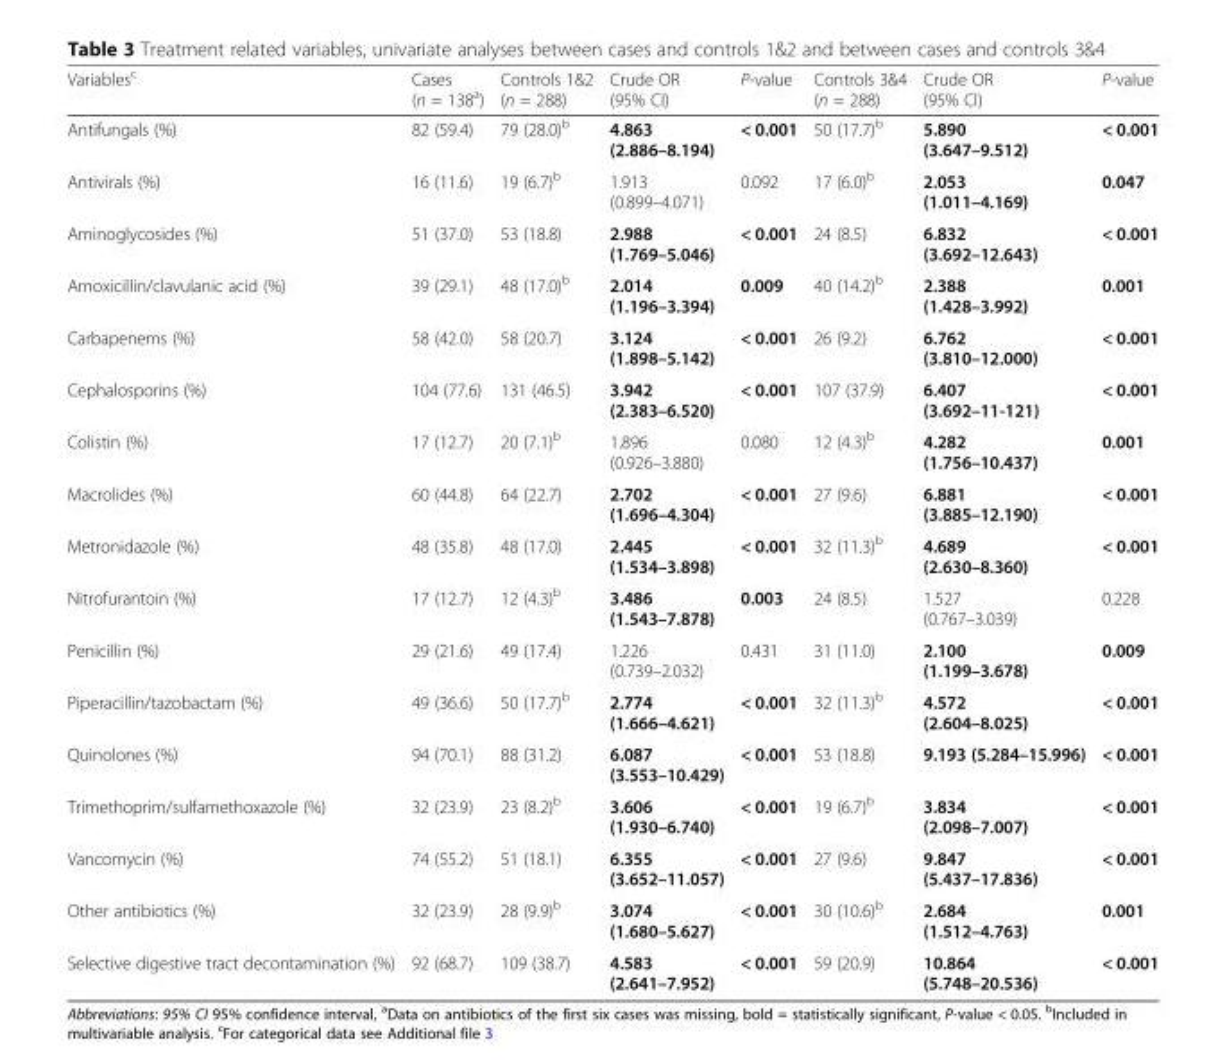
<table><thead><tr><td>Variables<sup>c</sup></td><td>Cases (n = 138<sup>a</sup>)</td><td>Controls 1&amp;2 (n = 288)</td><td>Crude OR (95% CI)</td><td>P-value</td><td>Controls 3&amp;4 (n = 288)</td><td>Crude OR (95% CI)</td><td>P-value</td></tr></thead><tbody><tr><td>Antifungals (%)</td><td>82 (59.4)</td><td>79 (28.0)<sup>b</sup></td><td>4.863 (2.886–8.194)</td><td>&lt; 0.001</td><td>50 (17.7)<sup>b</sup></td><td>5.890 (3.647–9.512)</td><td>&lt; 0.001</td></tr><tr><td>Antivirals (%)</td><td>16 (11.6)</td><td>19 (6.7)<sup>b</sup></td><td>1.913 (0.899–4.071)</td><td>0.092</td><td>17 (6.0)<sup>b</sup></td><td>2.053 (1.011–4.169)</td><td>0.047</td></tr><tr><td>Aminoglycosides (%)</td><td>51 (37.0)</td><td>53 (18.8)</td><td>2.988 (1.769–5.046)</td><td>&lt; 0.001</td><td>24 (8.5)</td><td>6.832 (3.692–12.643)</td><td>&lt; 0.001</td></tr><tr><td>Amoxicillin/clavulanic acid (%)</td><td>39 (29.1)</td><td>48 (17.0)<sup>b</sup></td><td>2.014 (1.196–3.394)</td><td>0.009</td><td>40 (14.2)<sup>b</sup></td><td>2.388 (1.428–3.992)</td><td>0.001</td></tr><tr><td>Carbapenems (%)</td><td>58 (42.0)</td><td>58 (20.7)</td><td>3.124 (1.898–5.142)</td><td>&lt; 0.001</td><td>26 (9.2)</td><td>6.762 (3.810–12.000)</td><td>&lt; 0.001</td></tr><tr><td>Cephalosporins (%)</td><td>104 (77.6)</td><td>131 (46.5)</td><td>3.942 (2.383–6.520)</td><td>&lt; 0.001</td><td>107 (37.9)</td><td>6.407 (3.692–11-121)</td><td>&lt; 0.001</td></tr><tr><td>Colistin (%)</td><td>17 (12.7)</td><td>20 (7.1)<sup>b</sup></td><td>1.896 (0.926–3.880)</td><td>0.080</td><td>12 (4.3)<sup>b</sup></td><td>4.282 (1.756–10.437)</td><td>0.001</td></tr><tr><td>Macrolides (%)</td><td>60 (44.8)</td><td>64 (22.7)</td><td>2.702 (1.696–4.304)</td><td>&lt; 0.001</td><td>27 (9.6)</td><td>6.881 (3.885–12.190)</td><td>&lt; 0.001</td></tr><tr><td>Metronidazole (%)</td><td>48 (35.8)</td><td>48 (17.0)</td><td>2.445 (1.534–3.898)</td><td>&lt; 0.001</td><td>32 (11.3)<sup>b</sup></td><td>4.689 (2.630–8.360)</td><td>&lt; 0.001</td></tr><tr><td>Nitrofurantoin (%)</td><td>17 (12.7)</td><td>12 (4.3)<sup>b</sup></td><td>3.486 (1.543–7.878)</td><td>0.003</td><td>24 (8.5)</td><td>1.527 (0.767–3.039)</td><td>0.228</td></tr><tr><td>Penicillin (%)</td><td>29 (21.6)</td><td>49 (17.4)</td><td>1.226 (0.739–2.032)</td><td>0.431</td><td>31 (11.0)</td><td>2.100 (1.199–3.678)</td><td>0.009</td></tr><tr><td>Piperacillin/tazobactam (%)</td><td>49 (36.6)</td><td>50 (17.7)<sup>b</sup></td><td>2.774 (1.666–4.621)</td><td>&lt; 0.001</td><td>32 (11.3)<sup>b</sup></td><td>4.572 (2.604–8.025)</td><td>&lt; 0.001</td></tr><tr><td>Quinolones (%)</td><td>94 (70.1)</td><td>88 (31.2)</td><td>6.087 (3.553–10.429)</td><td>&lt; 0.001</td><td>53 (18.8)</td><td>9.193 (5.284–15.996)</td><td>&lt; 0.001</td></tr><tr><td>Trimethoprim/sulfamethoxazole (%)</td><td>32 (23.9)</td><td>23 (8.2)<sup>b</sup></td><td>3.606 (1.930–6.740)</td><td>&lt; 0.001</td><td>19 (6.7)<sup>b</sup></td><td>3.834 (2.098–7.007)</td><td>&lt; 0.001</td></tr><tr><td>Vancomycin (%)</td><td>74 (55.2)</td><td>51 (18.1)</td><td>6.355 (3.652–11.057)</td><td>&lt; 0.001</td><td>27 (9.6)</td><td>9.847 (5.437–17.836)</td><td>&lt; 0.001</td></tr><tr><td>Other antibiotics (%)</td><td>32 (23.9)</td><td>28 (9.9)<sup>b</sup></td><td>3.074 (1.680–5.627)</td><td>&lt; 0.001</td><td>30 (10.6)<sup>b</sup></td><td>2.684 (1.512–4.763)</td><td>0.001</td></tr><tr><td>Selective digestive tract decontamination (%)</td><td>92 (68.7)</td><td>109 (38.7)</td><td>4.583 (2.641–7.952)</td><td>&lt; 0.001</td><td>59 (20.9)</td><td>10.864 (5.748–20.536)</td><td>&lt; 0.001</td></tr></tbody></table>